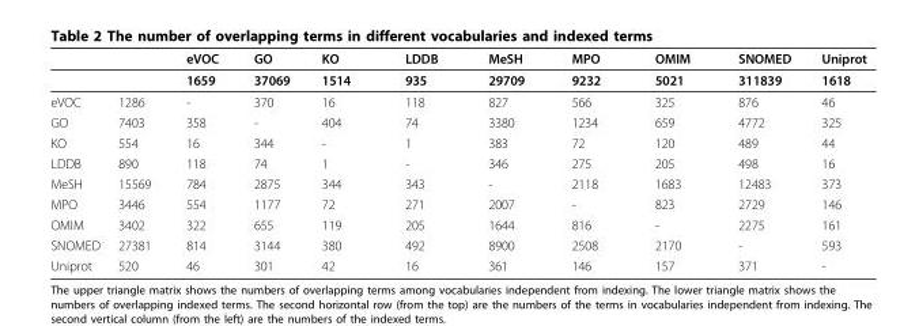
<table><thead><tr><td></td><td></td><td>eVOC</td><td>GO</td><td>KO</td><td>LDDB</td><td>MeSH</td><td>MPO</td><td>OMIM</td><td>SNOMED</td><td>Uniprot</td></tr></thead><tbody><tr><td></td><td></td><td>1659</td><td>37069</td><td>1514</td><td>935</td><td>29709</td><td>9232</td><td>5021</td><td>311839</td><td>1618</td></tr><tr><td>eVOC</td><td>1286</td><td>-</td><td>370</td><td>16</td><td>118</td><td>827</td><td>566</td><td>325</td><td>876</td><td>46</td></tr><tr><td>GO</td><td>7403</td><td>358</td><td>-</td><td>404</td><td>74</td><td>3380</td><td>1234</td><td>659</td><td>4772</td><td>325</td></tr><tr><td>KO</td><td>554</td><td>16</td><td>344</td><td>-</td><td>1</td><td>383</td><td>72</td><td>120</td><td>489</td><td>44</td></tr><tr><td>LDDB</td><td>890</td><td>118</td><td>74</td><td>1</td><td>-</td><td>346</td><td>275</td><td>205</td><td>498</td><td>16</td></tr><tr><td>MeSH</td><td>15569</td><td>784</td><td>2875</td><td>344</td><td>343</td><td>-</td><td>2118</td><td>1683</td><td>12483</td><td>373</td></tr><tr><td>MPO</td><td>3446</td><td>554</td><td>1177</td><td>72</td><td>271</td><td>2007</td><td>-</td><td>823</td><td>2729</td><td>146</td></tr><tr><td>OMIM</td><td>3402</td><td>322</td><td>655</td><td>119</td><td>205</td><td>1644</td><td>816</td><td>-</td><td>2275</td><td>161</td></tr><tr><td>SNOMED</td><td>27381</td><td>814</td><td>3144</td><td>380</td><td>492</td><td>8900</td><td>2508</td><td>2170</td><td>-</td><td>593</td></tr><tr><td>Uniprot</td><td>520</td><td>46</td><td>301</td><td>42</td><td>16</td><td>361</td><td>146</td><td>157</td><td>371</td><td>-</td></tr></tbody></table>